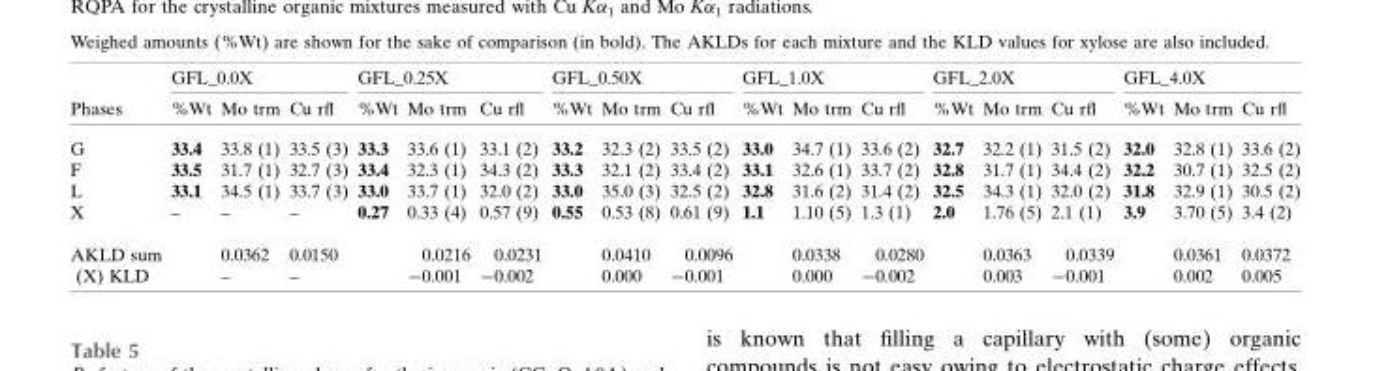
<table><thead><tr><td rowspan="2">Phases</td><td colspan="3">GFL_0.0X</td><td colspan="3">GFL_0.25X</td><td colspan="3">GFL_0.50X</td><td colspan="3">GFL_1.0X</td><td colspan="3">GFL_2.0X</td><td colspan="3">GFL_4.0X</td></tr><tr><td>%Wt</td><td>Mo trm</td><td>Cu rfl</td><td>%Wt</td><td>Mo trm</td><td>Cu rfl</td><td>%Wt</td><td>Mo trm</td><td>Cu rfl</td><td>%Wt</td><td>Mo trm</td><td>Cu rfl</td><td>%Wt</td><td>Mo trm</td><td>Cu rfl</td><td>%Wt</td><td>Mo trm</td><td>Cu rfl</td></tr></thead><tbody><tr><td>G</td><td>33.4</td><td>33.8 (1)</td><td>33.5 (3)</td><td>33.3</td><td>33.6 (1)</td><td>33.1 (2)</td><td>33.2</td><td>32.3 (2)</td><td>33.5 (2)</td><td>33.0</td><td>34.7 (1)</td><td>33.6 (2)</td><td>32.7</td><td>32.2 (1)</td><td>31.5 (2)</td><td>32.0</td><td>32.8 (1)</td><td>33.6 (2)</td></tr><tr><td>F</td><td>33.5</td><td>31.7 (1)</td><td>32.7 (3)</td><td>33.4</td><td>32.3 (1)</td><td>34.3 (2)</td><td>33.3</td><td>32.1 (2)</td><td>33.4 (2)</td><td>33.1</td><td>32.6 (1)</td><td>33.7 (2)</td><td>32.8</td><td>31.7 (1)</td><td>34.4 (2)</td><td>32.2</td><td>30.7 (1)</td><td>32.5 (2)</td></tr><tr><td>L</td><td>33.1</td><td>34.5 (1)</td><td>33.7 (3)</td><td>33.0</td><td>33.7 (1)</td><td>32.0 (2)</td><td>33.0</td><td>35.0 (3)</td><td>32.5 (2)</td><td>32.8</td><td>31.6 (2)</td><td>31.4 (2)</td><td>32.5</td><td>34.3 (1)</td><td>32.0 (2)</td><td>31.8</td><td>32.9 (1)</td><td>30.5 (2)</td></tr><tr><td>X</td><td>–</td><td>–</td><td>–</td><td>0.27</td><td>0.33 (4)</td><td>0.57 (9)</td><td>0.55</td><td>0.53 (8)</td><td>0.61 (9)</td><td>1.1</td><td>1.10 (5)</td><td>1.3 (1)</td><td>2.0</td><td>1.76 (5)</td><td>2.1 (1)</td><td>3.9</td><td>3.70 (5)</td><td>3.4 (2)</td></tr><tr><td>AKLD sum</td><td></td><td>0.0362</td><td>0.0150</td><td></td><td>0.0216</td><td>0.0231</td><td></td><td>0.0410</td><td>0.0096</td><td></td><td>0.0338</td><td>0.0280</td><td></td><td>0.0363</td><td>0.0339</td><td></td><td>0.0361</td><td>0.0372</td></tr><tr><td>(X) KLD</td><td></td><td>–</td><td>–</td><td></td><td>−0.001</td><td>−0.002</td><td></td><td>0.000</td><td>−0.001</td><td></td><td>0.000</td><td>−0.002</td><td></td><td>0.003</td><td>−0.001</td><td></td><td>0.002</td><td>0.005</td></tr></tbody></table>